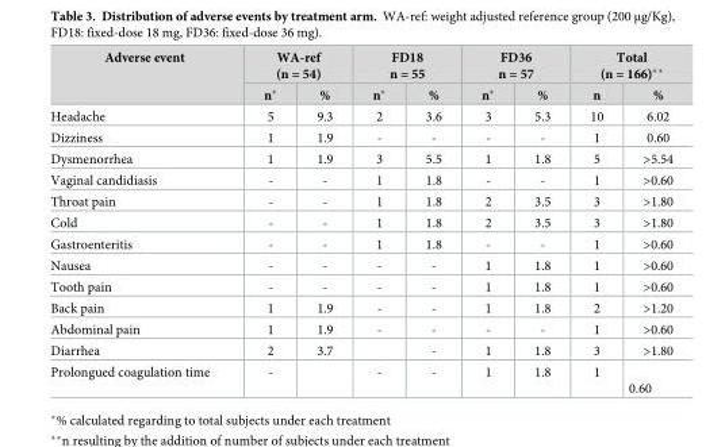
<table><thead><tr><td rowspan="2">Adverse event</td><td colspan="2">WA-ref (n = 54)</td><td colspan="2">FD18 n = 55</td><td colspan="2">FD36 n = 57</td><td colspan="2">Total (n = 166)**</td></tr><tr><td>n*</td><td>%</td><td>n*</td><td>%</td><td>n*</td><td>%</td><td>n</td><td>%</td></tr></thead><tbody><tr><td>Headache</td><td>5</td><td>9.3</td><td>2</td><td>3.6</td><td>3</td><td>5.3</td><td>10</td><td>6.02</td></tr><tr><td>Dizziness</td><td>1</td><td>1.9</td><td>-</td><td>-</td><td>-</td><td>-</td><td>1</td><td>0.60</td></tr><tr><td>Dysmenorrhea</td><td>1</td><td>1.9</td><td>3</td><td>5.5</td><td>1</td><td>1.8</td><td>5</td><td>&gt;5.54</td></tr><tr><td>Vaginal candidiasis</td><td>-</td><td>-</td><td>1</td><td>1.8</td><td>-</td><td>-</td><td>1</td><td>&gt;0.60</td></tr><tr><td>Throat pain</td><td>-</td><td>-</td><td>1</td><td>1.8</td><td>2</td><td>3.5</td><td>3</td><td>&gt;1.80</td></tr><tr><td>Cold</td><td>-</td><td>-</td><td>1</td><td>1.8</td><td>2</td><td>3.5</td><td>3</td><td>&gt;1.80</td></tr><tr><td>Gastroenteritis</td><td>-</td><td>-</td><td>1</td><td>1.8</td><td>-</td><td>-</td><td>1</td><td>&gt;0.60</td></tr><tr><td>Nausea</td><td>-</td><td>-</td><td>-</td><td>-</td><td>1</td><td>1.8</td><td>1</td><td>&gt;0.60</td></tr><tr><td>Tooth pain</td><td>-</td><td>-</td><td>-</td><td>-</td><td>1</td><td>1.8</td><td>1</td><td>&gt;0.60</td></tr><tr><td>Back pain</td><td>1</td><td>1.9</td><td>-</td><td>-</td><td>1</td><td>1.8</td><td>2</td><td>&gt;1.20</td></tr><tr><td>Abdominal pain</td><td>1</td><td>1.9</td><td>-</td><td>-</td><td>-</td><td>-</td><td>1</td><td>&gt;0.60</td></tr><tr><td>Diarrhea</td><td>2</td><td>3.7</td><td></td><td>-</td><td>1</td><td>1.8</td><td>3</td><td>&gt;1.80</td></tr><tr><td>Prolongued coagulation time</td><td>-</td><td></td><td>-</td><td>-</td><td>1</td><td>1.8</td><td>1</td><td>0.60</td></tr></tbody></table>